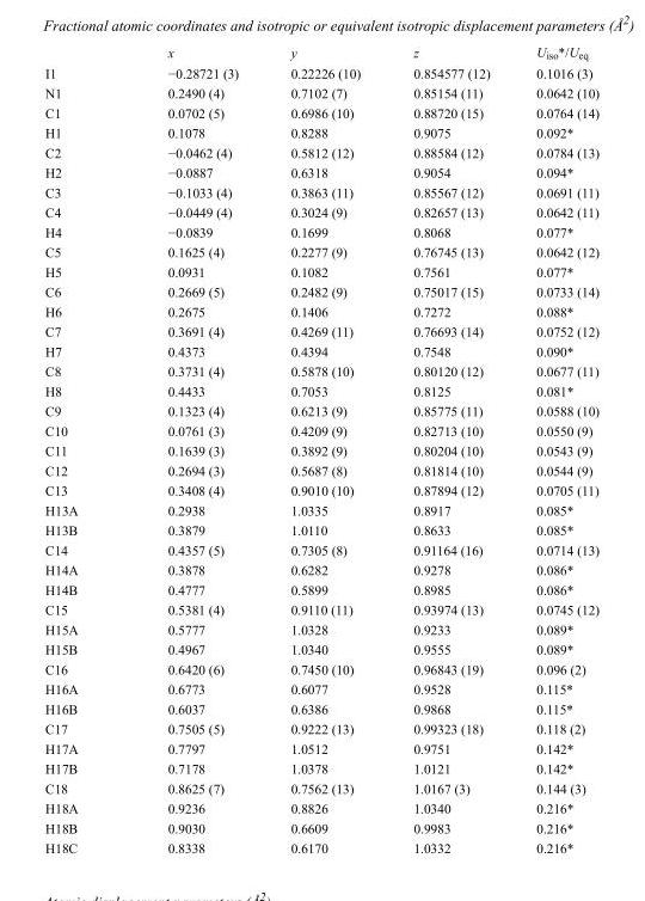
<table><thead><tr><td></td><td>x</td><td>y</td><td>z</td><td>U<sub>iso</sub>*/U<sub>eq</sub></td></tr></thead><tbody><tr><td>I1</td><td>−0.28721 (3)</td><td>0.22226 (10)</td><td>0.854577 (12)</td><td>0.1016 (3)</td></tr><tr><td>N1</td><td>0.2490 (4)</td><td>0.7102 (7)</td><td>0.85154 (11)</td><td>0.0642 (10)</td></tr><tr><td>C1</td><td>0.0702 (5)</td><td>0.6986 (10)</td><td>0.88720 (15)</td><td>0.0764 (14)</td></tr><tr><td>H1</td><td>0.1078</td><td>0.8288</td><td>0.9075</td><td>0.092*</td></tr><tr><td>C2</td><td>−0.0462 (4)</td><td>0.5812 (12)</td><td>0.88584 (12)</td><td>0.0784 (13)</td></tr><tr><td>H2</td><td>−0.0887</td><td>0.6318</td><td>0.9054</td><td>0.094*</td></tr><tr><td>C3</td><td>−0.1033 (4)</td><td>0.3863 (11)</td><td>0.85567 (12)</td><td>0.0691 (11)</td></tr><tr><td>C4</td><td>−0.0449 (4)</td><td>0.3024 (9)</td><td>0.82657 (13)</td><td>0.0642 (11)</td></tr><tr><td>H4</td><td>−0.0839</td><td>0.1699</td><td>0.8068</td><td>0.077*</td></tr><tr><td>C5</td><td>0.1625 (4)</td><td>0.2277 (9)</td><td>0.76745 (13)</td><td>0.0642 (12)</td></tr><tr><td>H5</td><td>0.0931</td><td>0.1082</td><td>0.7561</td><td>0.077*</td></tr><tr><td>C6</td><td>0.2669 (5)</td><td>0.2482 (9)</td><td>0.75017 (15)</td><td>0.0733 (14)</td></tr><tr><td>H6</td><td>0.2675</td><td>0.1406</td><td>0.7272</td><td>0.088*</td></tr><tr><td>C7</td><td>0.3691 (4)</td><td>0.4269 (11)</td><td>0.76693 (14)</td><td>0.0752 (12)</td></tr><tr><td>H7</td><td>0.4373</td><td>0.4394</td><td>0.7548</td><td>0.090*</td></tr><tr><td>C8</td><td>0.3731 (4)</td><td>0.5878 (10)</td><td>0.80120 (12)</td><td>0.0677 (11)</td></tr><tr><td>H8</td><td>0.4433</td><td>0.7053</td><td>0.8125</td><td>0.081*</td></tr><tr><td>C9</td><td>0.1323 (4)</td><td>0.6213 (9)</td><td>0.85775 (11)</td><td>0.0588 (10)</td></tr><tr><td>C10</td><td>0.0761 (3)</td><td>0.4209 (9)</td><td>0.82713 (10)</td><td>0.0550 (9)</td></tr><tr><td>C11</td><td>0.1639 (3)</td><td>0.3892 (9)</td><td>0.80204 (10)</td><td>0.0543 (9)</td></tr><tr><td>C12</td><td>0.2694 (3)</td><td>0.5687 (8)</td><td>0.81814 (10)</td><td>0.0544 (9)</td></tr><tr><td>C13</td><td>0.3408 (4)</td><td>0.9010 (10)</td><td>0.87894 (12)</td><td>0.0705 (11)</td></tr><tr><td>H13A</td><td>0.2938</td><td>1.0335</td><td>0.8917</td><td>0.085*</td></tr><tr><td>H13B</td><td>0.3879</td><td>1.0110</td><td>0.8633</td><td>0.085*</td></tr><tr><td>C14</td><td>0.4357 (5)</td><td>0.7305 (8)</td><td>0.91164 (16)</td><td>0.0714 (13)</td></tr><tr><td>H14A</td><td>0.3878</td><td>0.6282</td><td>0.9278</td><td>0.086*</td></tr><tr><td>H14B</td><td>0.4777</td><td>0.5899</td><td>0.8985</td><td>0.086*</td></tr><tr><td>C15</td><td>0.5381 (4)</td><td>0.9110 (11)</td><td>0.93974 (13)</td><td>0.0745 (12)</td></tr><tr><td>H15A</td><td>0.5777</td><td>1.0328</td><td>0.9233</td><td>0.089*</td></tr><tr><td>H15B</td><td>0.4967</td><td>1.0340</td><td>0.9555</td><td>0.089*</td></tr><tr><td>C16</td><td>0.6420 (6)</td><td>0.7450 (10)</td><td>0.96843 (19)</td><td>0.096 (2)</td></tr><tr><td>H16A</td><td>0.6773</td><td>0.6077</td><td>0.9528</td><td>0.115*</td></tr><tr><td>H16B</td><td>0.6037</td><td>0.6386</td><td>0.9868</td><td>0.115*</td></tr><tr><td>C17</td><td>0.7505 (5)</td><td>0.9222 (13)</td><td>0.99323 (18)</td><td>0.118 (2)</td></tr><tr><td>H17A</td><td>0.7797</td><td>1.0512</td><td>0.9751</td><td>0.142*</td></tr><tr><td>H17B</td><td>0.7178</td><td>1.0378</td><td>1.0121</td><td>0.142*</td></tr><tr><td>C18</td><td>0.8625 (7)</td><td>0.7562 (13)</td><td>1.0167 (3)</td><td>0.144 (3)</td></tr><tr><td>H18A</td><td>0.9236</td><td>0.8826</td><td>1.0340</td><td>0.216*</td></tr><tr><td>H18B</td><td>0.9030</td><td>0.6609</td><td>0.9983</td><td>0.216*</td></tr><tr><td>H18C</td><td>0.8338</td><td>0.6170</td><td>1.0332</td><td>0.216*</td></tr></tbody></table>